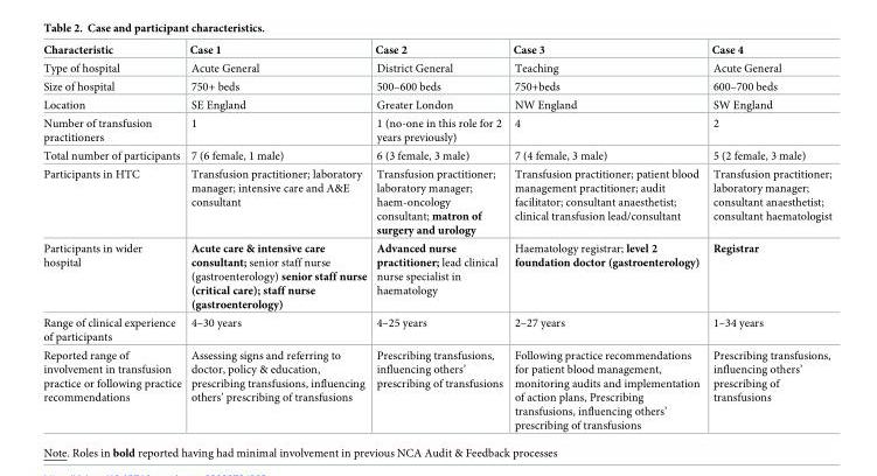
<table><thead><tr><td>Characteristic</td><td>Case 1</td><td>Case 2</td><td>Case 3</td><td>Case 4</td></tr></thead><tbody><tr><td>Type of hospital</td><td>Acute General</td><td>District General</td><td>Teaching</td><td>Acute General</td></tr><tr><td>Size of hospital</td><td>750+ beds</td><td>500–600 beds</td><td>750+beds</td><td>600–700 beds</td></tr><tr><td>Location</td><td>SE England</td><td>Greater London</td><td>NW England</td><td>SW England</td></tr><tr><td>Number of transfusion practitioners</td><td>1</td><td>1 (no-one in this role for 2 years previously)</td><td>4</td><td>2</td></tr><tr><td>Total number of participants</td><td>7 (6 female, 1 male)</td><td>6 (3 female, 3 male)</td><td>7 (4 female, 3 male)</td><td>5 (2 female, 3 male)</td></tr><tr><td>Participants in HTC</td><td>Transfusion practitioner; laboratory manager; intensive care and A&amp;E consultant</td><td>Transfusion practitioner; laboratory manager; haem-oncology consultant; matron of surgery and urology</td><td>Transfusion practitioner; patient blood management practitioner; audit facilitator; consultant anaesthetist; clinical transfusion lead/consultant</td><td>Transfusion practitioner; laboratory manager; consultant anaesthetist; consultant haematologist</td></tr><tr><td>Participants in wider hospital</td><td>Acute care &amp; intensive care consultant; senior staff nurse (gastroenterology) senior staff nurse (critical care); staff nurse (gastroenterology)</td><td>Advanced nurse practitioner; lead clinical nurse specialist in haematology</td><td>Haematology registrar; level 2 foundation doctor (gastroenterology)</td><td>Registrar</td></tr><tr><td>Range of clinical experience of participants</td><td>4–30 years</td><td>4–25 years</td><td>2–27 years</td><td>1–34 years</td></tr><tr><td>Reported range of involvement in transfusion practice or following practice recommendations</td><td>Assessing signs and referring to doctor, policy &amp; education, prescribing transfusions, influencing others’ prescribing of transfusions</td><td>Prescribing transfusions, influencing others’ prescribing of transfusions</td><td>Following practice recommendations for patient blood management, monitoring audits and implementation of action plans, Prescribing transfusions, influencing others’ prescribing of transfusions</td><td>Prescribing transfusions, influencing others’ prescribing of transfusions</td></tr></tbody></table>